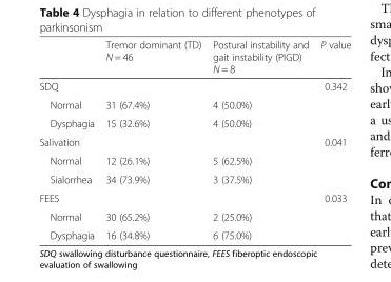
<table><thead><tr><td></td><td>Tremor dominant (TD) N = 46</td><td>Postural instability and gait instability (PIGD) N = 8</td><td>P value</td></tr></thead><tbody><tr><td>SDQ</td><td></td><td></td><td>0.342</td></tr><tr><td>Normal</td><td>31 (67.4%)</td><td>4 (50.0%)</td><td></td></tr><tr><td>Dysphagia</td><td>15 (32.6%)</td><td>4 (50.0%)</td><td></td></tr><tr><td>Salivation</td><td></td><td></td><td>0.041</td></tr><tr><td>Normal</td><td>12 (26.1%)</td><td>5 (62.5%)</td><td></td></tr><tr><td>Sialorrhea</td><td>34 (73.9%)</td><td>3 (37.5%)</td><td></td></tr><tr><td>FEES</td><td></td><td></td><td>0.033</td></tr><tr><td>Normal</td><td>30 (65.2%)</td><td>2 (25.0%)</td><td></td></tr><tr><td>Dysphagia</td><td>16 (34.8%)</td><td>6 (75.0%)</td><td></td></tr></tbody></table>